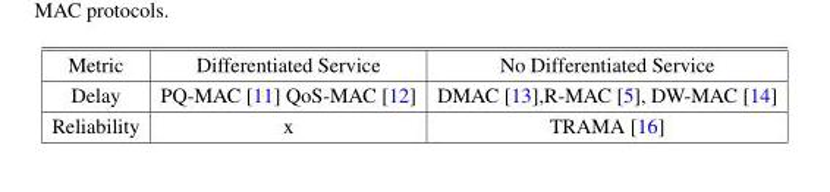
<table><thead><tr><td>Metric</td><td>Differentiated Service</td><td>No Differentiated Service</td></tr></thead><tbody><tr><td>Delay</td><td>PQ-MAC [11] QoS-MAC [12]</td><td>DMAC [13],R-MAC [5], DW-MAC [14]</td></tr><tr><td>Reliability</td><td>x</td><td>TRAMA [16]</td></tr></tbody></table>